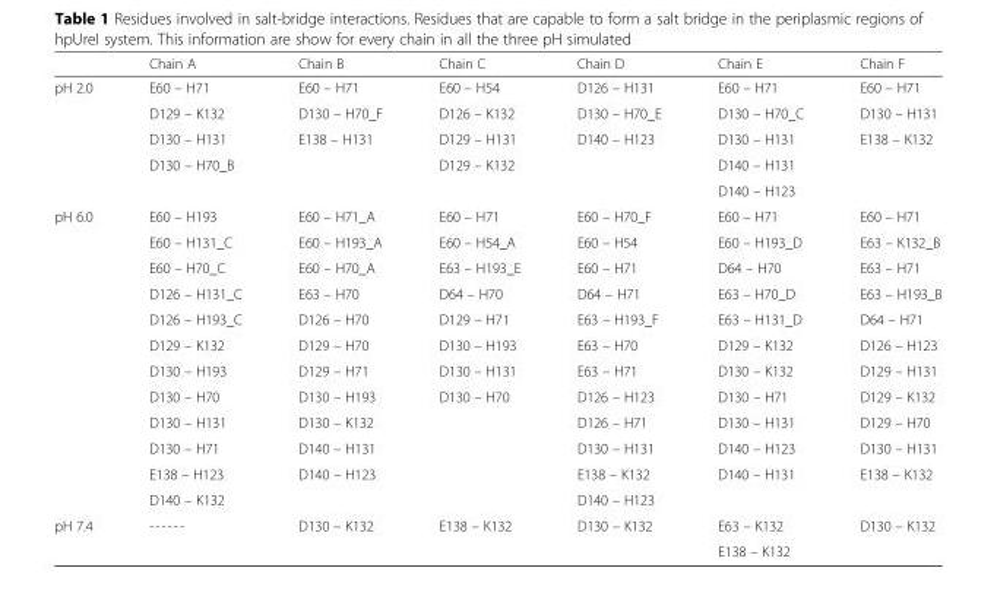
<table><thead><tr><td></td><td>Chain A</td><td>Chain B</td><td>Chain C</td><td>Chain D</td><td>Chain E</td><td>Chain F</td></tr></thead><tbody><tr><td rowspan="5">pH 2.0</td><td>E60 – H71</td><td>E60 – H71</td><td>E60 – H54</td><td>D126 – H131</td><td>E60 – H71</td><td>E60 – H71</td></tr><tr><td>D129 – K132</td><td>D130 – H70_F</td><td>D126 – K132</td><td>D130 – H70_E</td><td>D130 – H70_C</td><td>D130 – H131</td></tr><tr><td>D130 – H131</td><td>E138 – H131</td><td>D129 – H131</td><td>D140 – H123</td><td>D130 – H131</td><td>E138 – K132</td></tr><tr><td>D130 – H70_B</td><td></td><td>D129 – K132</td><td></td><td>D140 – H131</td><td></td></tr><tr><td></td><td></td><td></td><td></td><td>D140 – H123</td><td></td></tr><tr><td rowspan="12">pH 6.0</td><td>E60 – H193</td><td>E60 – H71_A</td><td>E60 – H71</td><td>E60 – H70_F</td><td>E60 – H71</td><td>E60 – H71</td></tr><tr><td>E60 – H131_C</td><td>E60 – H193_A</td><td>E60 – H54_A</td><td>E60 – H54</td><td>E60 – H193_D</td><td>E63 – K132_B</td></tr><tr><td>E60 – H70_C</td><td>E60 – H70_A</td><td>E63 – H193_E</td><td>E60 – H71</td><td>D64 – H70</td><td>E63 – H71</td></tr><tr><td>D126 – H131_C</td><td>E63 – H70</td><td>D64 – H70</td><td>D64 – H71</td><td>E63 – H70_D</td><td>E63 – H193_B</td></tr><tr><td>D126 – H193_C</td><td>D126 – H70</td><td>D129 – H71</td><td>E63 – H193_F</td><td>E63 – H131_D</td><td>D64 – H71</td></tr><tr><td>D129 – K132</td><td>D129 – H70</td><td>D130 – H193</td><td>E63 – H70</td><td>D129 – K132</td><td>D126 – H123</td></tr><tr><td>D130 – H193</td><td>D129 – H71</td><td>D130 – H131</td><td>E63 – H71</td><td>D130 – K132</td><td>D129 – H131</td></tr><tr><td>D130 – H70</td><td>D130 – H193</td><td>D130 – H70</td><td>D126 – H123</td><td>D130 – H71</td><td>D129 – K132</td></tr><tr><td>D130 – H131</td><td>D130 – K132</td><td></td><td>D126 – H71</td><td>D130 – H131</td><td>D129 – H70</td></tr><tr><td>D130 – H71</td><td>D140 – H131</td><td></td><td>D130 – H131</td><td>D140 – H123</td><td>D130 – H131</td></tr><tr><td>E138 – H123</td><td>D140 – H123</td><td></td><td>E138 – K132</td><td>D140 – H131</td><td>E138 – K132</td></tr><tr><td>D140 – K132</td><td></td><td></td><td>D140 – H123</td><td></td><td></td></tr><tr><td rowspan="2">pH 7.4</td><td>------</td><td>D130 – K132</td><td>E138 – K132</td><td>D130 – K132</td><td>E63 – K132</td><td>D130 – K132</td></tr><tr><td></td><td></td><td></td><td></td><td>E138 – K132</td><td></td></tr></tbody></table>